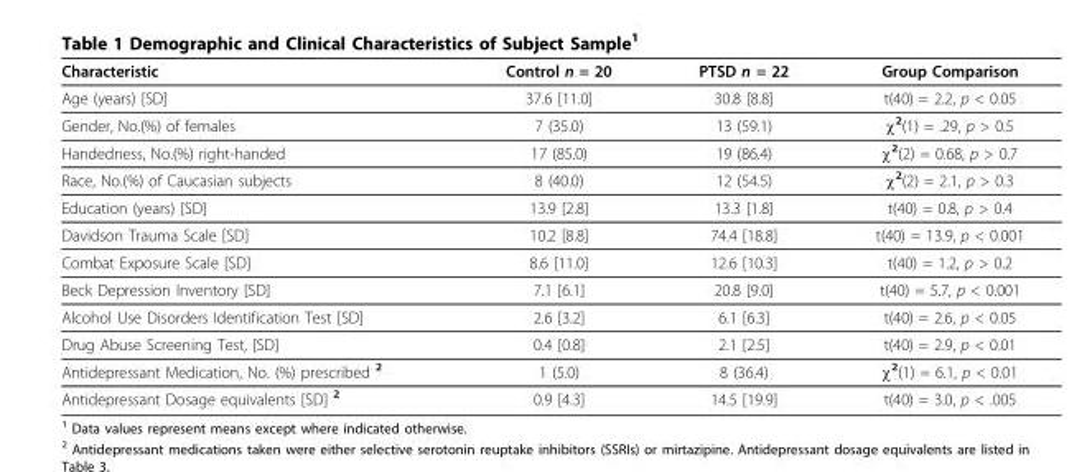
<table><thead><tr><td>Characteristic</td><td>Control n = 20</td><td>PTSD n = 22</td><td>Group Comparison</td></tr></thead><tbody><tr><td>Age (years) [SD]</td><td>37.6 [11.0]</td><td>30.8 [8.8]</td><td>t(40) = 2.2, p &lt; 0.05</td></tr><tr><td>Gender, No.(%) of females</td><td>7 (35.0)</td><td>13 (59.1)</td><td>χ<sup>2</sup>(1) = .29, p &gt; 0.5</td></tr><tr><td>Handedness, No.(%) right-handed</td><td>17 (85.0)</td><td>19 (86.4)</td><td>χ<sup>2</sup>(2) = 0.68, p &gt; 0.7</td></tr><tr><td>Race, No.(%) of Caucasian subjects</td><td>8 (40.0)</td><td>12 (54.5)</td><td>χ<sup>2</sup>(2) = 2.1, p &gt; 0.3</td></tr><tr><td>Education (years) [SD]</td><td>13.9 [2.8]</td><td>13.3 [1.8]</td><td>t(40) = 0.8, p &gt; 0.4</td></tr><tr><td>Davidson Trauma Scale [SD]</td><td>10.2 [8.8]</td><td>74.4 [18.8]</td><td>t(40) = 13.9, p &lt; 0.001</td></tr><tr><td>Combat Exposure Scale [SD]</td><td>8.6 [11.0]</td><td>12.6 [10.3]</td><td>t(40) = 1.2, p &gt; 0.2</td></tr><tr><td>Beck Depression Inventory [SD]</td><td>7.1 [6.1]</td><td>20.8 [9.0]</td><td>t(40) = 5.7, p &lt; 0.001</td></tr><tr><td>Alcohol Use Disorders Identification Test [SD]</td><td>2.6 [3.2]</td><td>6.1 [6.3]</td><td>t(40) = 2.6, p &lt; 0.05</td></tr><tr><td>Drug Abuse Screening Test, [SD]</td><td>0.4 [0.8]</td><td>2.1 [2.5]</td><td>t(40) = 2.9, p &lt; 0.01</td></tr><tr><td>Antidepressant Medication, No. (%) prescribed <sup>2</sup></td><td>1 (5.0)</td><td>8 (36.4)</td><td>χ<sup>2</sup>(1) = 6.1, p &lt; 0.01</td></tr><tr><td>Antidepressant Dosage equivalents [SD] <sup>2</sup></td><td>0.9 [4.3]</td><td>14.5 [19.9]</td><td>t(40) = 3.0, p &lt; .005</td></tr></tbody></table>